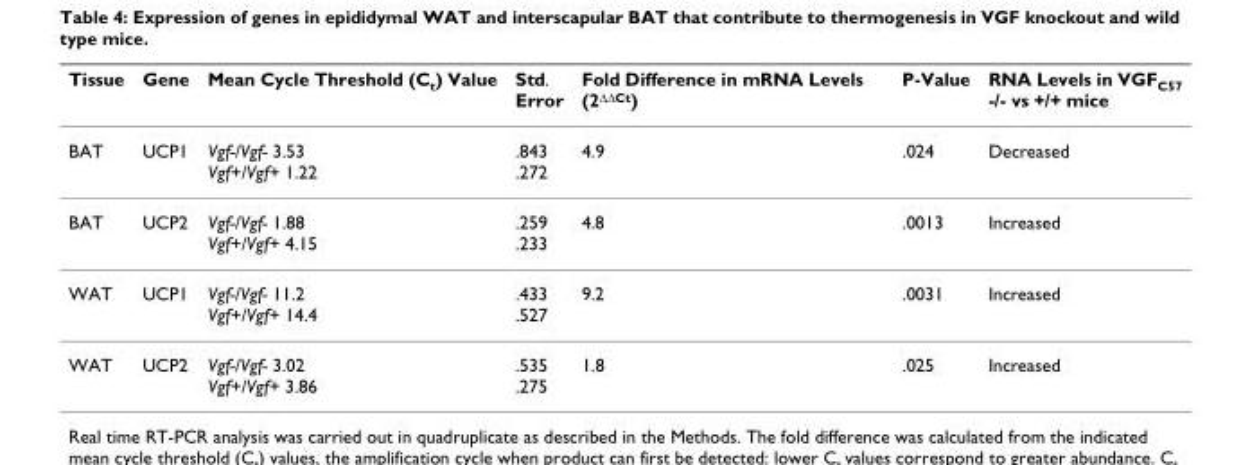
<table><thead><tr><td>Tissue</td><td>Gene</td><td>Mean Cycle Threshold (C<sub>t</sub>) Value</td><td>Std. Error</td><td>Fold Difference in mRNA Levels (2<sup>ΔΔCt</sup>)</td><td>P-Value</td><td>RNA Levels in VGF<sub>C57</sub> -/- vs +/+ mice</td></tr></thead><tbody><tr><td>BAT</td><td>UCP1</td><td>Vgf-/Vgf- 3.53 Vgf+/Vgf+ 1.22</td><td>.843 .272</td><td>4.9</td><td>.024</td><td>Decreased</td></tr><tr><td>BAT</td><td>UCP2</td><td>Vgf-/Vgf- 1.88 Vgf+/Vgf+ 4.15</td><td>.259 .233</td><td>4.8</td><td>.0013</td><td>Increased</td></tr><tr><td>WAT</td><td>UCP1</td><td>Vgf-/Vgf- 11.2 Vgf+/Vgf+ 14.4</td><td>.433 .527</td><td>9.2</td><td>.0031</td><td>Increased</td></tr><tr><td>WAT</td><td>UCP2</td><td>Vgf-/Vgf- 3.02 Vgf+/Vgf+ 3.86</td><td>.535 .275</td><td>1.8</td><td>.025</td><td>Increased</td></tr></tbody></table>